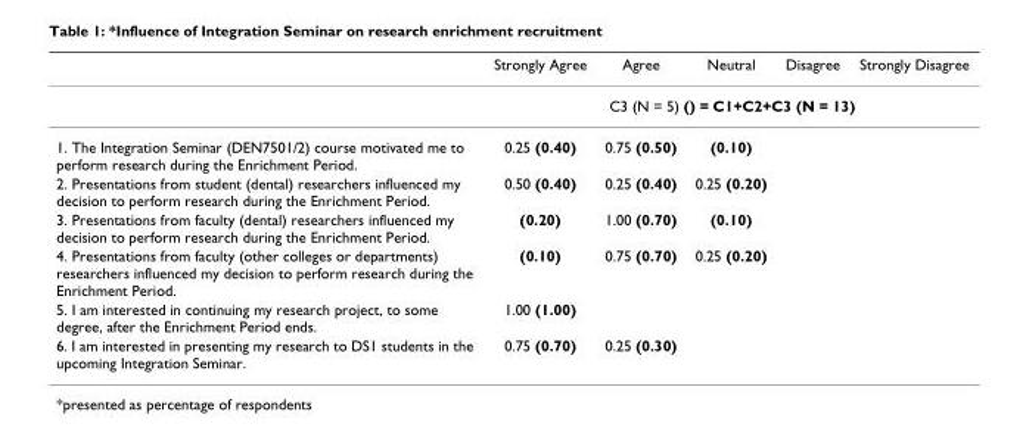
<table><thead><tr><td></td><td>Strongly Agree</td><td>Agree</td><td>Neutral</td><td>Disagree</td><td>Strongly Disagree</td></tr></thead><tbody><tr><td></td><td colspan="5">C3 (N = 5) () = C1+C2+C3 (N = 13)</td></tr><tr><td>1. The Integration Seminar (DEN7501/2) course motivated me to perform research during the Enrichment Period.</td><td>0.25 (0.40)</td><td>0.75 (0.50)</td><td>(0.10)</td><td></td><td></td></tr><tr><td>2. Presentations from student (dental) researchers influenced my decision to perform research during the Enrichment Period.</td><td>0.50 (0.40)</td><td>0.25 (0.40)</td><td>0.25 (0.20)</td><td></td><td></td></tr><tr><td>3. Presentations from faculty (dental) researchers influenced my decision to perform research during the Enrichment Period.</td><td>(0.20)</td><td>1.00 (0.70)</td><td>(0.10)</td><td></td><td></td></tr><tr><td>4. Presentations from faculty (other colleges or departments) researchers influenced my decision to perform research during the Enrichment Period.</td><td>(0.10)</td><td>0.75 (0.70)</td><td>0.25 (0.20)</td><td></td><td></td></tr><tr><td>5. I am interested in continuing my research project, to some degree, after the Enrichment Period ends.</td><td>1.00 (1.00)</td><td></td><td></td><td></td><td></td></tr><tr><td>6. I am interested in presenting my research to DS1 students in the upcoming Integration Seminar.</td><td>0.75 (0.70)</td><td>0.25 (0.30)</td><td></td><td></td><td></td></tr></tbody></table>